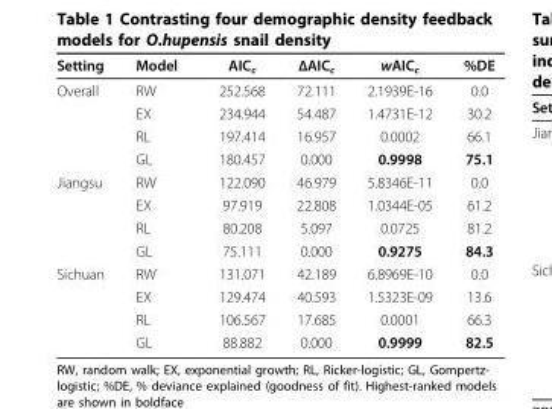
<table><thead><tr><td>Setting</td><td>Model</td><td>AIC<sub>c</sub></td><td>ΔAIC<sub>c</sub></td><td>wAIC<sub>c</sub></td><td>%DE</td></tr></thead><tbody><tr><td rowspan="4">Overall</td><td>RW</td><td>252.568</td><td>72.111</td><td>2.1939E-16</td><td>0.0</td></tr><tr><td>EX</td><td>234.944</td><td>54.487</td><td>1.4731E-12</td><td>30.2</td></tr><tr><td>RL</td><td>197.414</td><td>16.957</td><td>0.0002</td><td>66.1</td></tr><tr><td>GL</td><td>180.457</td><td>0.000</td><td>0.9998</td><td>75.1</td></tr><tr><td rowspan="4">Jiangsu</td><td>RW</td><td>122.090</td><td>46.979</td><td>5.8346E-11</td><td>0.0</td></tr><tr><td>EX</td><td>97.919</td><td>22.808</td><td>1.0344E-05</td><td>61.2</td></tr><tr><td>RL</td><td>80.208</td><td>5.097</td><td>0.0725</td><td>81.2</td></tr><tr><td>GL</td><td>75.111</td><td>0.000</td><td>0.9275</td><td>84.3</td></tr><tr><td rowspan="4">Sichuan</td><td>RW</td><td>131.071</td><td>42.189</td><td>6.8969E-10</td><td>0.0</td></tr><tr><td>EX</td><td>129.474</td><td>40.593</td><td>1.5323E-09</td><td>13.6</td></tr><tr><td>RL</td><td>106.567</td><td>17.685</td><td>0.0001</td><td>66.3</td></tr><tr><td>GL</td><td>88.882</td><td>0.000</td><td>0.9999</td><td>82.5</td></tr></tbody></table>